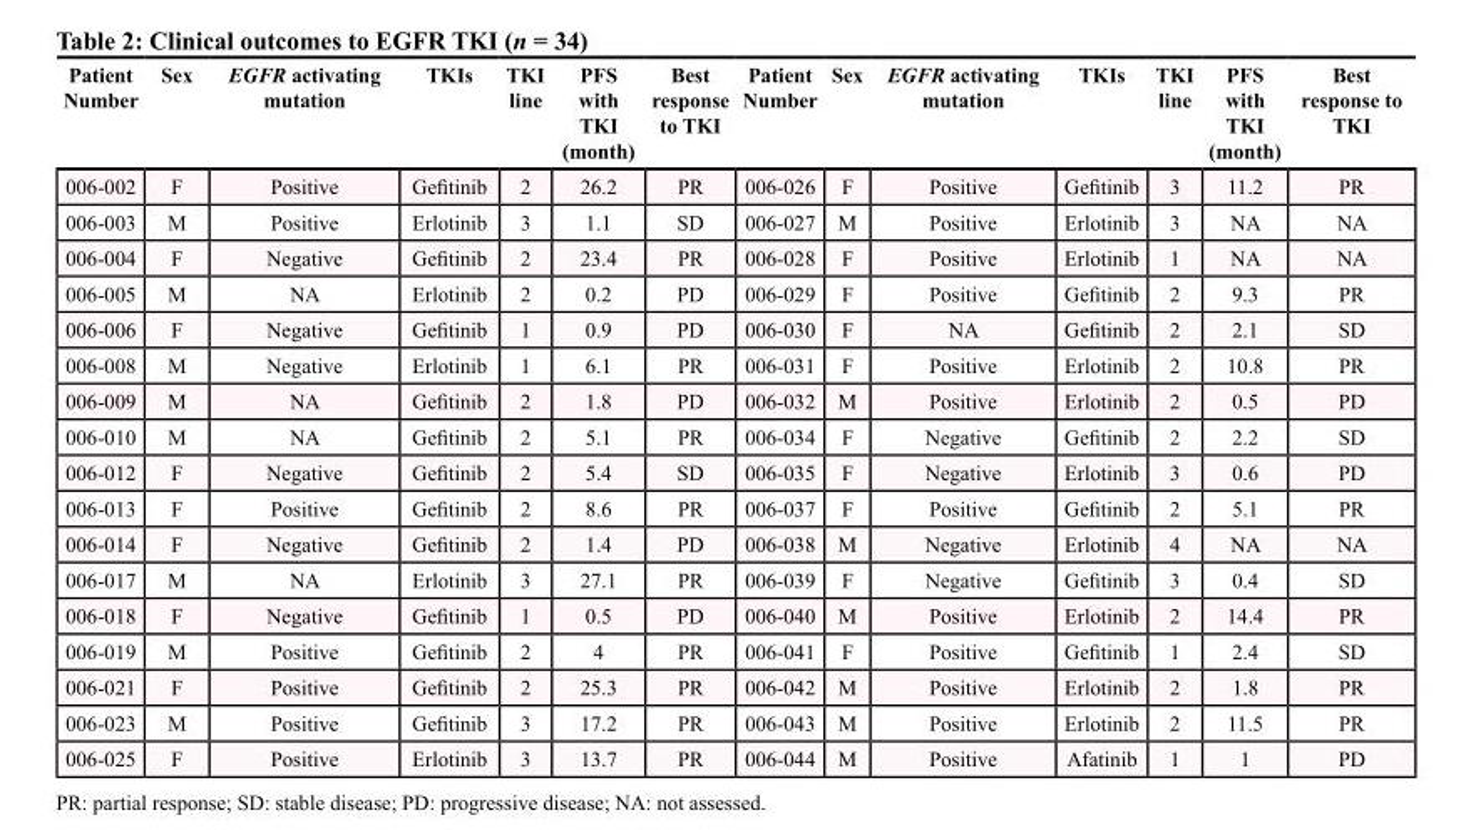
<table><thead><tr><td>Patient Number</td><td>Sex</td><td>EGFR activating mutation</td><td>TKIs</td><td>TKI line</td><td>PFS with TKI (month)</td><td>Best response to TKI</td><td>Patient Number</td><td>Sex</td><td>EGFR activating mutation</td><td>TKIs</td><td>TKI line</td><td>PFS with TKI (month)</td><td>Best response to TKI</td></tr></thead><tbody><tr><td>006-002</td><td>F</td><td>Positive</td><td>Gefitinib</td><td>2</td><td>26.2</td><td>PR</td><td>006-026</td><td>F</td><td>Positive</td><td>Gefitinib</td><td>3</td><td>11.2</td><td>PR</td></tr><tr><td>006-003</td><td>M</td><td>Positive</td><td>Erlotinib</td><td>3</td><td>1.1</td><td>SD</td><td>006-027</td><td>M</td><td>Positive</td><td>Erlotinib</td><td>3</td><td>NA</td><td>NA</td></tr><tr><td>006-004</td><td>F</td><td>Negative</td><td>Gefitinib</td><td>2</td><td>23.4</td><td>PR</td><td>006-028</td><td>F</td><td>Positive</td><td>Erlotinib</td><td>1</td><td>NA</td><td>NA</td></tr><tr><td>006-005</td><td>M</td><td>NA</td><td>Erlotinib</td><td>2</td><td>0.2</td><td>PD</td><td>006-029</td><td>F</td><td>Positive</td><td>Gefitinib</td><td>2</td><td>9.3</td><td>PR</td></tr><tr><td>006-006</td><td>F</td><td>Negative</td><td>Gefitinib</td><td>1</td><td>0.9</td><td>PD</td><td>006-030</td><td>F</td><td>NA</td><td>Gefitinib</td><td>2</td><td>2.1</td><td>SD</td></tr><tr><td>006-008</td><td>M</td><td>Negative</td><td>Erlotinib</td><td>1</td><td>6.1</td><td>PR</td><td>006-031</td><td>F</td><td>Positive</td><td>Erlotinib</td><td>2</td><td>10.8</td><td>PR</td></tr><tr><td>006-009</td><td>M</td><td>NA</td><td>Gefitinib</td><td>2</td><td>1.8</td><td>PD</td><td>006-032</td><td>M</td><td>Positive</td><td>Erlotinib</td><td>2</td><td>0.5</td><td>PD</td></tr><tr><td>006-010</td><td>M</td><td>NA</td><td>Gefitinib</td><td>2</td><td>5.1</td><td>PR</td><td>006-034</td><td>F</td><td>Negative</td><td>Gefitinib</td><td>2</td><td>2.2</td><td>SD</td></tr><tr><td>006-012</td><td>F</td><td>Negative</td><td>Gefitinib</td><td>2</td><td>5.4</td><td>SD</td><td>006-035</td><td>F</td><td>Negative</td><td>Erlotinib</td><td>3</td><td>0.6</td><td>PD</td></tr><tr><td>006-013</td><td>F</td><td>Positive</td><td>Gefitinib</td><td>2</td><td>8.6</td><td>PR</td><td>006-037</td><td>F</td><td>Positive</td><td>Gefitinib</td><td>2</td><td>5.1</td><td>PR</td></tr><tr><td>006-014</td><td>F</td><td>Negative</td><td>Gefitinib</td><td>2</td><td>1.4</td><td>PD</td><td>006-038</td><td>M</td><td>Negative</td><td>Erlotinib</td><td>4</td><td>NA</td><td>NA</td></tr><tr><td>006-017</td><td>M</td><td>NA</td><td>Erlotinib</td><td>3</td><td>27.1</td><td>PR</td><td>006-039</td><td>F</td><td>Negative</td><td>Gefitinib</td><td>3</td><td>0.4</td><td>SD</td></tr><tr><td>006-018</td><td>F</td><td>Negative</td><td>Gefitinib</td><td>1</td><td>0.5</td><td>PD</td><td>006-040</td><td>M</td><td>Positive</td><td>Erlotinib</td><td>2</td><td>14.4</td><td>PR</td></tr><tr><td>006-019</td><td>M</td><td>Positive</td><td>Gefitinib</td><td>2</td><td>4</td><td>PR</td><td>006-041</td><td>F</td><td>Positive</td><td>Gefitinib</td><td>1</td><td>2.4</td><td>SD</td></tr><tr><td>006-021</td><td>F</td><td>Positive</td><td>Gefitinib</td><td>2</td><td>25.3</td><td>PR</td><td>006-042</td><td>M</td><td>Positive</td><td>Erlotinib</td><td>2</td><td>1.8</td><td>PR</td></tr><tr><td>006-023</td><td>M</td><td>Positive</td><td>Gefitinib</td><td>3</td><td>17.2</td><td>PR</td><td>006-043</td><td>M</td><td>Positive</td><td>Erlotinib</td><td>2</td><td>11.5</td><td>PR</td></tr><tr><td>006-025</td><td>F</td><td>Positive</td><td>Erlotinib</td><td>3</td><td>13.7</td><td>PR</td><td>006-044</td><td>M</td><td>Positive</td><td>Afatinib</td><td>1</td><td>1</td><td>PD</td></tr></tbody></table>